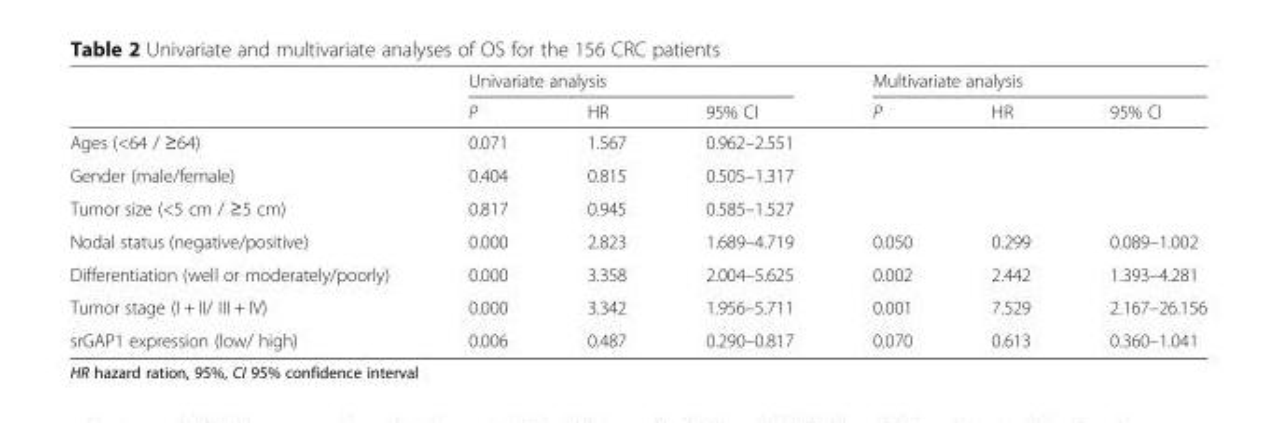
<table><thead><tr><td rowspan="2"></td><td colspan="3">Univariate analysis</td><td colspan="3">Multivariate analysis</td></tr><tr><td>P</td><td>HR</td><td>95% CI</td><td>P</td><td>HR</td><td>95% CI</td></tr></thead><tbody><tr><td>Ages (&lt;64 / ≥64)</td><td>0.071</td><td>1.567</td><td>0.962–2.551</td><td></td><td></td><td></td></tr><tr><td>Gender (male/female)</td><td>0.404</td><td>0.815</td><td>0.505–1.317</td><td></td><td></td><td></td></tr><tr><td>Tumor size (&lt;5 cm / ≥5 cm)</td><td>0.817</td><td>0.945</td><td>0.585–1.527</td><td></td><td></td><td></td></tr><tr><td>Nodal status (negative/positive)</td><td>0.000</td><td>2.823</td><td>1.689–4.719</td><td>0.050</td><td>0.299</td><td>0.089–1.002</td></tr><tr><td>Differentiation (well or moderately/poorly)</td><td>0.000</td><td>3.358</td><td>2.004–5.625</td><td>0.002</td><td>2.442</td><td>1.393–4.281</td></tr><tr><td>Tumor stage (I + II/ III + IV)</td><td>0.000</td><td>3.342</td><td>1.956–5.711</td><td>0.001</td><td>7.529</td><td>2.167–26.156</td></tr><tr><td>srGAP1 expression (low/ high)</td><td>0.006</td><td>0.487</td><td>0.290–0.817</td><td>0.070</td><td>0.613</td><td>0.360–1.041</td></tr></tbody></table>